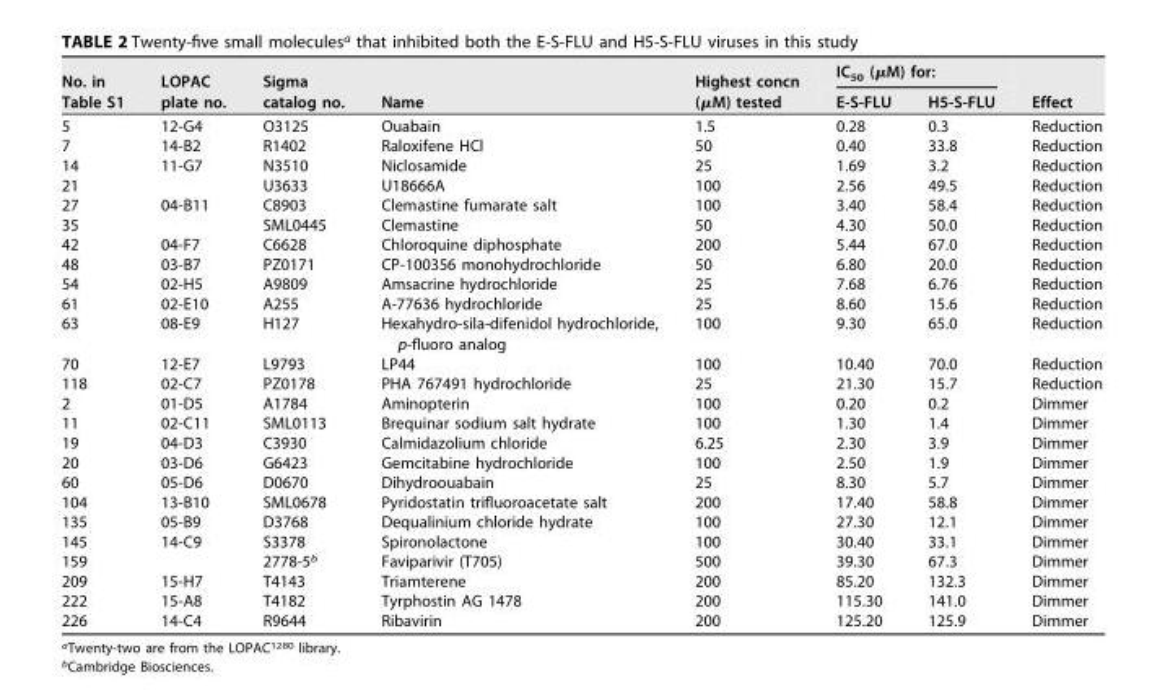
<table><thead><tr><td rowspan="2">No. in Table S1</td><td rowspan="2">LOPAC plate no.</td><td rowspan="2">Sigma catalog no.</td><td rowspan="2">Name</td><td rowspan="2">Highest concn (μM) tested</td><td colspan="2">IC<sub>50</sub> (μM) for:</td><td rowspan="2">Effect</td></tr><tr><td>E-S-FLU</td><td>H5-S-FLU</td></tr></thead><tbody><tr><td>5</td><td>12-G4</td><td>O3125</td><td>Ouabain</td><td>1.5</td><td>0.28</td><td>0.3</td><td>Reduction</td></tr><tr><td>7</td><td>14-B2</td><td>R1402</td><td>Raloxifene HCl</td><td>50</td><td>0.40</td><td>33.8</td><td>Reduction</td></tr><tr><td>14</td><td>11-G7</td><td>N3510</td><td>Niclosamide</td><td>25</td><td>1.69</td><td>3.2</td><td>Reduction</td></tr><tr><td>21</td><td></td><td>U3633</td><td>U18666A</td><td>100</td><td>2.56</td><td>49.5</td><td>Reduction</td></tr><tr><td>27</td><td>04-B11</td><td>C8903</td><td>Clemastine fumarate salt</td><td>100</td><td>3.40</td><td>58.4</td><td>Reduction</td></tr><tr><td>35</td><td></td><td>SML0445</td><td>Clemastine</td><td>50</td><td>4.30</td><td>50.0</td><td>Reduction</td></tr><tr><td>42</td><td>04-F7</td><td>C6628</td><td>Chloroquine diphosphate</td><td>200</td><td>5.44</td><td>67.0</td><td>Reduction</td></tr><tr><td>48</td><td>03-B7</td><td>PZ0171</td><td>CP-100356 monohydrochloride</td><td>50</td><td>6.80</td><td>20.0</td><td>Reduction</td></tr><tr><td>54</td><td>02-H5</td><td>A9809</td><td>Amsacrine hydrochloride</td><td>25</td><td>7.68</td><td>6.76</td><td>Reduction</td></tr><tr><td>61</td><td>02-E10</td><td>A255</td><td>A-77636 hydrochloride</td><td>25</td><td>8.60</td><td>15.6</td><td>Reduction</td></tr><tr><td>63</td><td>08-E9</td><td>H127</td><td>Hexahydro-sila-difenidol hydrochloride, p-fluoro analog</td><td>100</td><td>9.30</td><td>65.0</td><td>Reduction</td></tr><tr><td>70</td><td>12-E7</td><td>L9793</td><td>LP44</td><td>100</td><td>10.40</td><td>70.0</td><td>Reduction</td></tr><tr><td>118</td><td>02-C7</td><td>PZ0178</td><td>PHA 767491 hydrochloride</td><td>25</td><td>21.30</td><td>15.7</td><td>Reduction</td></tr><tr><td>2</td><td>01-D5</td><td>A1784</td><td>Aminopterin</td><td>100</td><td>0.20</td><td>0.2</td><td>Dimmer</td></tr><tr><td>11</td><td>02-C11</td><td>SML0113</td><td>Brequinar sodium salt hydrate</td><td>100</td><td>1.30</td><td>1.4</td><td>Dimmer</td></tr><tr><td>19</td><td>04-D3</td><td>C3930</td><td>Calmidazolium chloride</td><td>6.25</td><td>2.30</td><td>3.9</td><td>Dimmer</td></tr><tr><td>20</td><td>03-D6</td><td>G6423</td><td>Gemcitabine hydrochloride</td><td>100</td><td>2.50</td><td>1.9</td><td>Dimmer</td></tr><tr><td>60</td><td>05-D6</td><td>D0670</td><td>Dihydroouabain</td><td>25</td><td>8.30</td><td>5.7</td><td>Dimmer</td></tr><tr><td>104</td><td>13-B10</td><td>SML0678</td><td>Pyridostatin trifluoroacetate salt</td><td>200</td><td>17.40</td><td>58.8</td><td>Dimmer</td></tr><tr><td>135</td><td>05-B9</td><td>D3768</td><td>Dequalinium chloride hydrate</td><td>100</td><td>27.30</td><td>12.1</td><td>Dimmer</td></tr><tr><td>145</td><td>14-C9</td><td>S3378</td><td>Spironolactone</td><td>100</td><td>30.40</td><td>33.1</td><td>Dimmer</td></tr><tr><td>159</td><td></td><td>2778-5<sup>b</sup></td><td>Faviparivir (T705)</td><td>500</td><td>39.30</td><td>67.3</td><td>Dimmer</td></tr><tr><td>209</td><td>15-H7</td><td>T4143</td><td>Triamterene</td><td>200</td><td>85.20</td><td>132.3</td><td>Dimmer</td></tr><tr><td>222</td><td>15-A8</td><td>T4182</td><td>Tyrphostin AG 1478</td><td>200</td><td>115.30</td><td>141.0</td><td>Dimmer</td></tr><tr><td>226</td><td>14-C4</td><td>R9644</td><td>Ribavirin</td><td>200</td><td>125.20</td><td>125.9</td><td>Dimmer</td></tr></tbody></table>